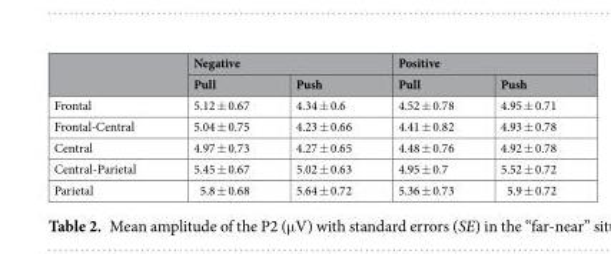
<table><thead><tr><td rowspan="2"></td><td colspan="2">Negative</td><td colspan="2">Positive</td></tr><tr><td>Pull</td><td>Push</td><td>Pull</td><td>Push</td></tr></thead><tbody><tr><td>Frontal</td><td>5.12 ± 0.67</td><td>4.34 ± 0.6</td><td>4.52 ± 0.78</td><td>4.95 ± 0.71</td></tr><tr><td>Frontal-Central</td><td>5.04 ± 0.75</td><td>4.23 ± 0.66</td><td>4.41 ± 0.82</td><td>4.93 ± 0.78</td></tr><tr><td>Central</td><td>4.97 ± 0.73</td><td>4.27 ± 0.65</td><td>4.48 ± 0.76</td><td>4.92 ± 0.78</td></tr><tr><td>Central-Parietal</td><td>5.45 ± 0.67</td><td>5.02 ± 0.63</td><td>4.95 ± 0.7</td><td>5.52 ± 0.72</td></tr><tr><td>Parietal</td><td>5.8 ± 0.68</td><td>5.64 ± 0.72</td><td>5.36 ± 0.73</td><td>5.9 ± 0.72</td></tr></tbody></table>